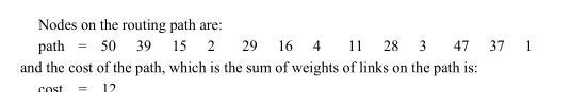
<table><tbody><tr><td>path</td><td>=</td><td>50</td><td>39</td><td>15</td><td>2</td><td>29</td><td>16</td><td>4</td><td>11</td><td>28</td><td>3</td><td>47</td><td>37</td><td>1</td></tr></tbody></table>